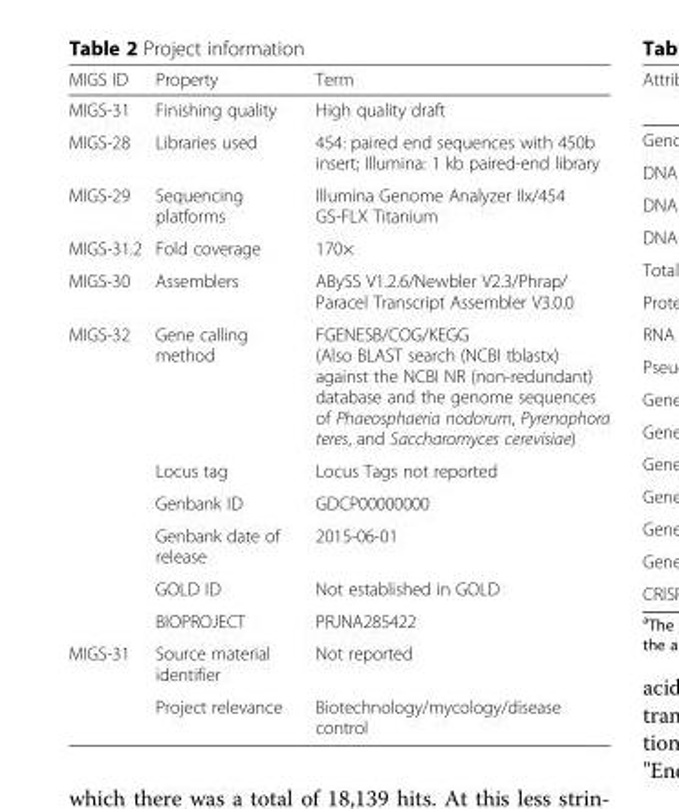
<table><thead><tr><td>MIGS ID</td><td>Property</td><td>Term</td></tr></thead><tbody><tr><td>MIGS-31</td><td>Finishing quality</td><td>High quality draft</td></tr><tr><td>MIGS-28</td><td>Libraries used</td><td>454: paired end sequences with 450b insert; Illumina: 1 kb paired-end library</td></tr><tr><td>MIGS-29</td><td>Sequencing platforms</td><td>Illumina Genome Analyzer IIx/454 GS-FLX Titanium</td></tr><tr><td>MIGS-31.2</td><td>Fold coverage</td><td>170×</td></tr><tr><td>MIGS-30</td><td>Assemblers</td><td>ABySS V1.2.6/Newbler V2.3/Phrap/ Paracel Transcript Assembler V3.0.0</td></tr><tr><td rowspan="6">MIGS-32</td><td>Gene calling method</td><td>FGENESB/COG/KEGG (Also BLAST search (NCBI tblastx) against the NCBI NR (non-redundant) database and the genome sequences of Phaeosphaeria nodorum, Pyrenophora teres, and Saccharomyces cerevisiae)</td></tr><tr><td>Locus tag</td><td>Locus Tags not reported</td></tr><tr><td>Genbank ID</td><td>GDCP00000000</td></tr><tr><td>Genbank date of release</td><td>2015-06-01</td></tr><tr><td>GOLD ID</td><td>Not established in GOLD</td></tr><tr><td>BIOPROJECT</td><td>PRJNA285422</td></tr><tr><td rowspan="2">MIGS-31</td><td>Source material identifier</td><td>Not reported</td></tr><tr><td>Project relevance</td><td>Biotechnology/mycology/disease control</td></tr></tbody></table>